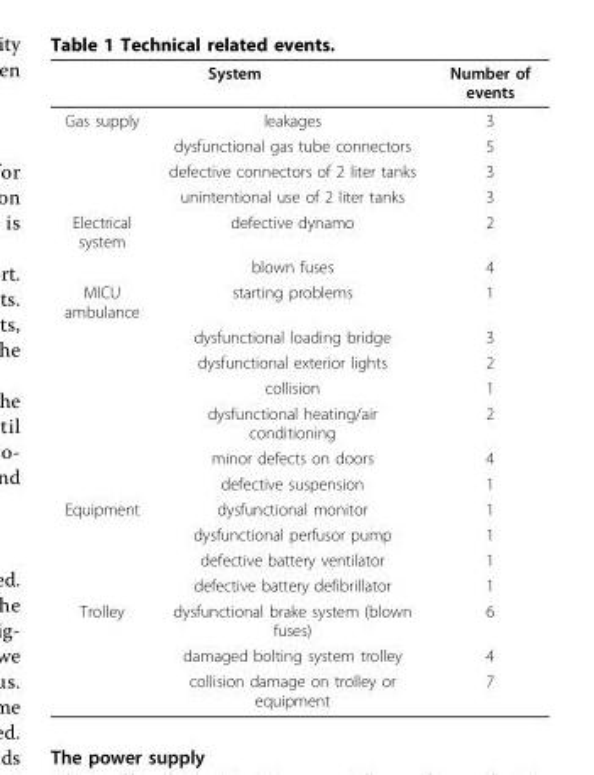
<table><thead><tr><td colspan="2">System</td><td rowspan="2">Number of events 3</td></tr><tr><td>Gas supply</td><td>leakages</td></tr></thead><tbody><tr><td></td><td>dysfunctional gas tube connectors</td><td>5</td></tr><tr><td></td><td>defective connectors of 2 liter tanks</td><td>3</td></tr><tr><td></td><td>unintentional use of 2 liter tanks</td><td>3</td></tr><tr><td rowspan="2">Electrical system</td><td>defective dynamo</td><td>2</td></tr><tr><td>blown fuses</td><td>4</td></tr><tr><td rowspan="7">MICU ambulance</td><td>starting problems</td><td>1</td></tr><tr><td>dysfunctional loading bridge</td><td>3</td></tr><tr><td>dysfunctional exterior lights</td><td>2</td></tr><tr><td>collision</td><td>1</td></tr><tr><td>dysfunctional heating/air conditioning</td><td>2</td></tr><tr><td>minor defects on doors</td><td>4</td></tr><tr><td>defective suspension</td><td>1</td></tr><tr><td rowspan="4">Equipment</td><td>dysfunctional monitor</td><td>1</td></tr><tr><td>dysfunctional perfusor pump</td><td>1</td></tr><tr><td>defective battery ventilator</td><td>1</td></tr><tr><td>defective battery defibrillator</td><td>1</td></tr><tr><td rowspan="3">Trolley</td><td>dysfunctional brake system (blown fuses)</td><td>6</td></tr><tr><td>damaged bolting system trolley</td><td>4</td></tr><tr><td>collision damage on trolley or equipment</td><td>7</td></tr></tbody></table>